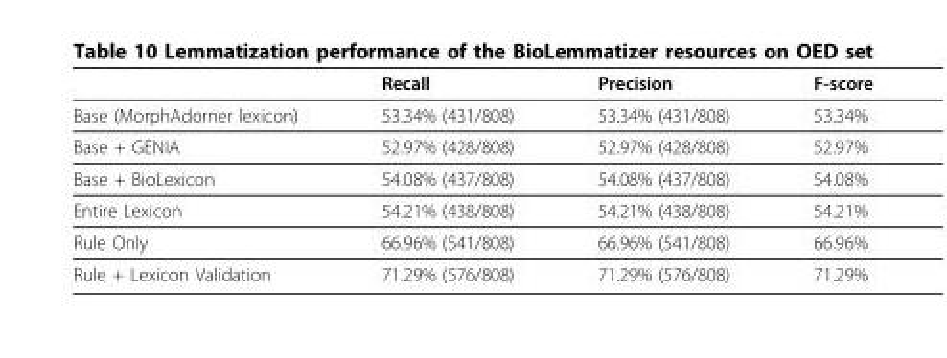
<table><thead><tr><td></td><td>Recall</td><td>Precision</td><td>F-score</td></tr></thead><tbody><tr><td>Base (MorphAdorner lexicon)</td><td>53.34% (431/808)</td><td>53.34% (431/808)</td><td>53.34%</td></tr><tr><td>Base + GENIA</td><td>52.97% (428/808)</td><td>52.97% (428/808)</td><td>52.97%</td></tr><tr><td>Base + BioLexicon</td><td>54.08% (437/808)</td><td>54.08% (437/808)</td><td>54.08%</td></tr><tr><td>Entire Lexicon</td><td>54.21% (438/808)</td><td>54.21% (438/808)</td><td>54.21%</td></tr><tr><td>Rule Only</td><td>66.96% (541/808)</td><td>66.96% (541/808)</td><td>66.96%</td></tr><tr><td>Rule + Lexicon Validation</td><td>71.29% (576/808)</td><td>71.29% (576/808)</td><td>71.29%</td></tr></tbody></table>